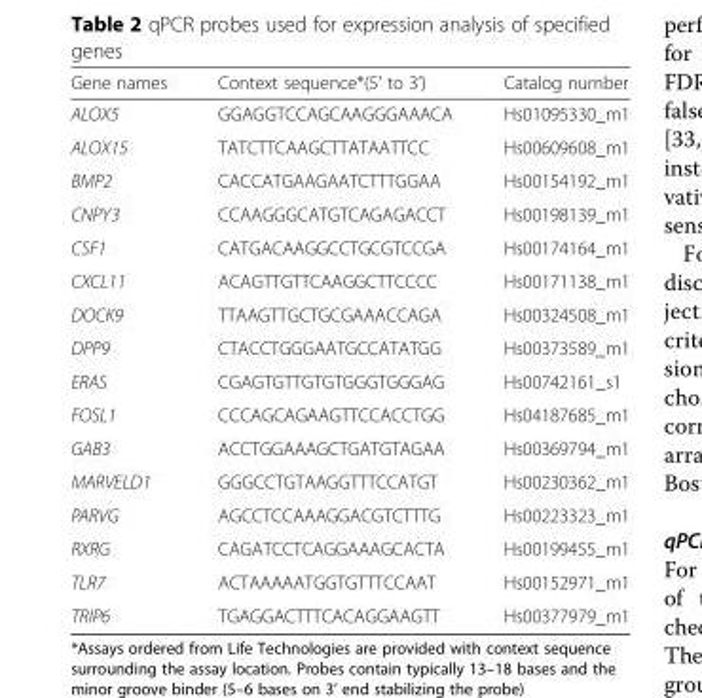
<table><thead><tr><td>Gene names</td><td>Context sequence*(5’ to 3’)</td><td>Catalog number</td></tr></thead><tbody><tr><td>ALOX5</td><td>GGAGGTCCAGCAAGGGAAACA</td><td>Hs01095330_m1</td></tr><tr><td>ALOX15</td><td>TATCTTCAAGCTTATAATTCC</td><td>Hs00609608_m1</td></tr><tr><td>BMP2</td><td>CACCATGAAGAATCTTTGGAA</td><td>Hs00154192_m1</td></tr><tr><td>CNPY3</td><td>CCAAGGGCATGTCAGAGACCT</td><td>Hs00198139_m1</td></tr><tr><td>CSF1</td><td>CATGACAAGGCCTGCGTCCGA</td><td>Hs00174164_m1</td></tr><tr><td>CXCL11</td><td>ACAGTTGTTCAAGGCTTCCCC</td><td>Hs00171138_m1</td></tr><tr><td>DOCK9</td><td>TTAAGTTGCTGCGAAACCAGA</td><td>Hs00324508_m1</td></tr><tr><td>DPP9</td><td>CTACCTGGGAATGCCATATGG</td><td>Hs00373589_m1</td></tr><tr><td>ERAS</td><td>CGAGTGTTGTGTGGGTGGGAG</td><td>Hs00742161_s1</td></tr><tr><td>FOSL1</td><td>CCCAGCAGAAGTTCCACCTGG</td><td>Hs04187685_m1</td></tr><tr><td>GAB3</td><td>ACCTGGAAAGCTGATGTAGAA</td><td>Hs00369794_m1</td></tr><tr><td>MARVELD1</td><td>GGGCCTGTAAGGTTTCCATGT</td><td>Hs00230362_m1</td></tr><tr><td>PARVG</td><td>AGCCTCCAAAGGACGTCTTTG</td><td>Hs00223323_m1</td></tr><tr><td>RXRG</td><td>CAGATCCTCAGGAAAGCACTA</td><td>Hs00199455_m1</td></tr><tr><td>TLR7</td><td>ACTAAAAATGGTGTTTCCAAT</td><td>Hs00152971_m1</td></tr><tr><td>TRIP6</td><td>TGAGGACTTTCACAGGAAGTT</td><td>Hs00377979_m1</td></tr></tbody></table>